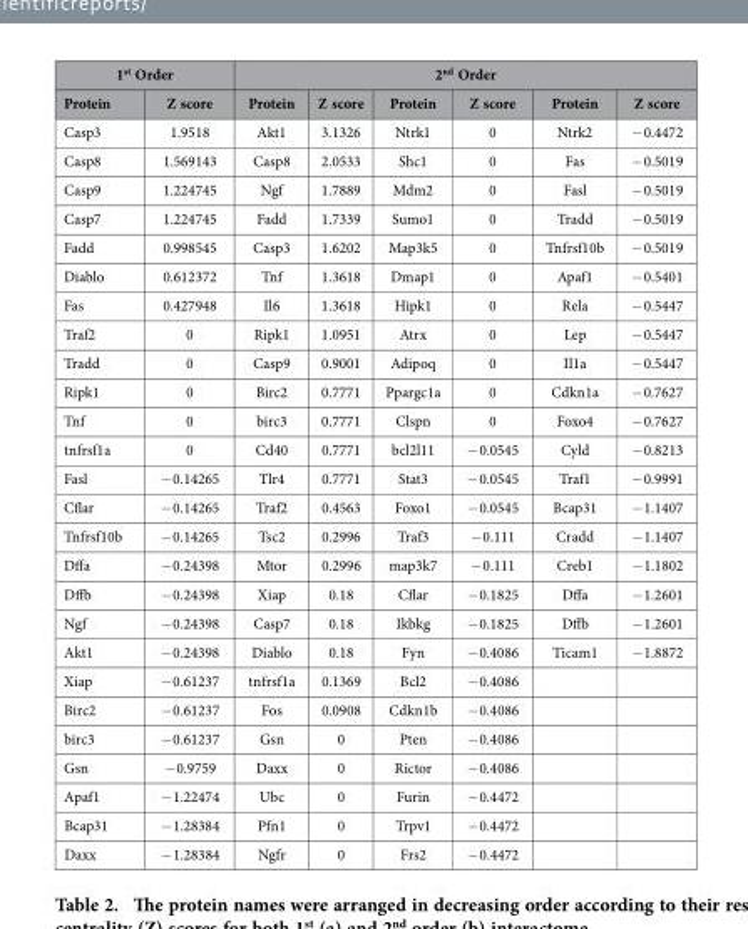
<table><thead><tr><td colspan="2">1<sup>st</sup> Order</td><td colspan="6">2<sup>nd</sup> Order</td></tr><tr><td>Protein</td><td>Z score</td><td>Protein</td><td>Z score</td><td>Protein</td><td>Z score</td><td>Protein</td><td>Z score</td></tr></thead><tbody><tr><td>Casp3</td><td>1.9518</td><td>Akt1</td><td>3.1326</td><td>Ntrk1</td><td>0</td><td>Ntrk2</td><td>− 0.4472</td></tr><tr><td>Casp8</td><td>1.569143</td><td>Casp8</td><td>2.0533</td><td>Shc1</td><td>0</td><td>Fas</td><td>− 0.5019</td></tr><tr><td>Casp9</td><td>1.224745</td><td>Ngf</td><td>1.7889</td><td>Mdm2</td><td>0</td><td>Fasl</td><td>− 0.5019</td></tr><tr><td>Casp7</td><td>1.224745</td><td>Fadd</td><td>1.7339</td><td>Sumo1</td><td>0</td><td>Tradd</td><td>− 0.5019</td></tr><tr><td>Fadd</td><td>0.998545</td><td>Casp3</td><td>1.6202</td><td>Map3k5</td><td>0</td><td>Tnfrsf10b</td><td>− 0.5019</td></tr><tr><td>Diablo</td><td>0.612372</td><td>Tnf</td><td>1.3618</td><td>Dmap1</td><td>0</td><td>Apaf1</td><td>− 0.5401</td></tr><tr><td>Fas</td><td>0.427948</td><td>Il6</td><td>1.3618</td><td>Hipk1</td><td>0</td><td>Rela</td><td>− 0.5447</td></tr><tr><td>Traf2</td><td>0</td><td>Ripk1</td><td>1.0951</td><td>Atrx</td><td>0</td><td>Lep</td><td>− 0.5447</td></tr><tr><td>Tradd</td><td>0</td><td>Casp9</td><td>0.9001</td><td>Adipoq</td><td>0</td><td>Il1a</td><td>− 0.5447</td></tr><tr><td>Ripk1</td><td>0</td><td>Birc2</td><td>0.7771</td><td>Ppargc1a</td><td>0</td><td>Cdkn1a</td><td>− 0.7627</td></tr><tr><td>Tnf</td><td>0</td><td>birc3</td><td>0.7771</td><td>Clspn</td><td>0</td><td>Foxo4</td><td>− 0.7627</td></tr><tr><td>tnfrsf1a</td><td>0</td><td>Cd40</td><td>0.7771</td><td>bcl2l11</td><td>− 0.0545</td><td>Cyld</td><td>− 0.8213</td></tr><tr><td>Fasl</td><td>− 0.14265</td><td>Tlr4</td><td>0.7771</td><td>Stat3</td><td>− 0.0545</td><td>Traf1</td><td>− 0.9991</td></tr><tr><td>Cflar</td><td>− 0.14265</td><td>Traf2</td><td>0.4563</td><td>Foxo1</td><td>− 0.0545</td><td>Bcap31</td><td>− 1.1407</td></tr><tr><td>Tnfrsf10b</td><td>− 0.14265</td><td>Tsc2</td><td>0.2996</td><td>Traf3</td><td>− 0.111</td><td>Cradd</td><td>− 1.1407</td></tr><tr><td>Dffa</td><td>− 0.24398</td><td>Mtor</td><td>0.2996</td><td>map3k7</td><td>− 0.111</td><td>Creb1</td><td>− 1.1802</td></tr><tr><td>Dffb</td><td>− 0.24398</td><td>Xiap</td><td>0.18</td><td>Cflar</td><td>− 0.1825</td><td>Dffa</td><td>− 1.2601</td></tr><tr><td>Ngf</td><td>− 0.24398</td><td>Casp7</td><td>0.18</td><td>Ikbkg</td><td>− 0.1825</td><td>Dffb</td><td>− 1.2601</td></tr><tr><td>Akt1</td><td>− 0.24398</td><td>Diablo</td><td>0.18</td><td>Fyn</td><td>− 0.4086</td><td>Ticam1</td><td>− 1.8872</td></tr><tr><td>Xiap</td><td>− 0.61237</td><td>tnfrsf1a</td><td>0.1369</td><td>Bcl2</td><td>− 0.4086</td><td></td><td></td></tr><tr><td>Birc2</td><td>− 0.61237</td><td>Fos</td><td>0.0908</td><td>Cdkn1b</td><td>− 0.4086</td><td></td><td></td></tr><tr><td>birc3</td><td>− 0.61237</td><td>Gsn</td><td>0</td><td>Pten</td><td>− 0.4086</td><td></td><td></td></tr><tr><td>Gsn</td><td>− 0.9759</td><td>Daxx</td><td>0</td><td>Rictor</td><td>− 0.4086</td><td></td><td></td></tr><tr><td>Apaf1</td><td>− 1.22474</td><td>Ubc</td><td>0</td><td>Furin</td><td>− 0.4472</td><td></td><td></td></tr><tr><td>Bcap31</td><td>− 1.28384</td><td>Pfn1</td><td>0</td><td>Trpv1</td><td>− 0.4472</td><td></td><td></td></tr><tr><td>Daxx</td><td>− 1.28384</td><td>Ngfr</td><td>0</td><td>Frs2</td><td>− 0.4472</td><td></td><td></td></tr></tbody></table>